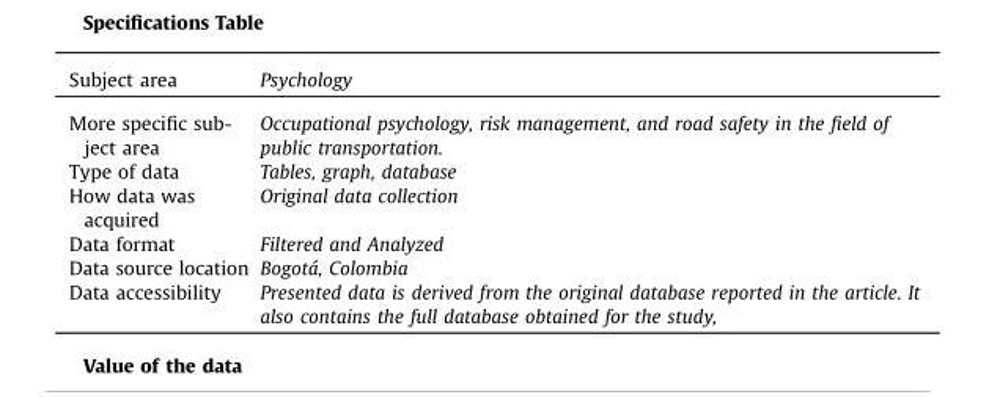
<table><thead><tr><td>Subject area</td><td>Psychology</td></tr></thead><tbody><tr><td>More specific sub- ject area</td><td>Occupational psychology, risk management, and road safety in the field of public transportation.</td></tr><tr><td>Type of data</td><td>Tables, graph, database</td></tr><tr><td>How data was acquired</td><td>Original data collection</td></tr><tr><td>Data format</td><td>Filtered and Analyzed</td></tr><tr><td>Data source location</td><td>Bogotá, Colombia</td></tr><tr><td>Data accessibility</td><td>Presented data is derived from the original database reported in the article. It also contains the full database obtained for the study,</td></tr></tbody></table>